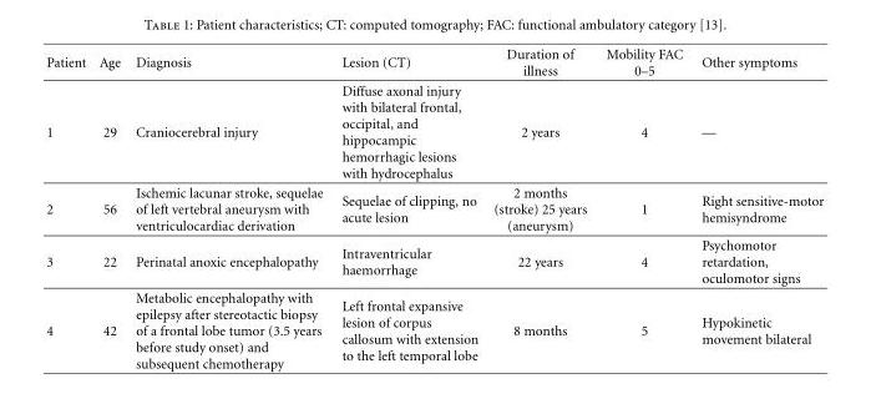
<table><thead><tr><td>Patient</td><td>Age</td><td>Diagnosis</td><td>Lesion (CT)</td><td>Duration of illness</td><td>Mobility FAC 0–5</td><td>Other symptoms</td></tr></thead><tbody><tr><td>1</td><td>29</td><td>Craniocerebral injury</td><td>Diffuse axonal injury with bilateral frontal, occipital, and hippocampic hemorrhagic lesions with hydrocephalus</td><td>2 years</td><td>4</td><td>—</td></tr><tr><td>2</td><td>56</td><td>Ischemic lacunar stroke, sequelae of left vertebral aneurysm with ventriculocardiac derivation</td><td>Sequelae of clipping, no acute lesion</td><td>2 months (stroke) 25 years (aneurysm)</td><td>1</td><td>Right sensitive-motor hemisyndrome</td></tr><tr><td>3</td><td>22</td><td>Perinatal anoxic encephalopathy</td><td>Intraventricular haemorrhage</td><td>22 years</td><td>4</td><td>Psychomotor retardation, oculomotor signs</td></tr><tr><td>4</td><td>42</td><td>Metabolic encephalopathy with epilepsy after stereotactic biopsy of a frontal lobe tumor (3.5 years before study onset) and subsequent chemotherapy</td><td>Left frontal expansive lesion of corpus callosum with extension to the left temporal lobe</td><td>8 months</td><td>5</td><td>Hypokinetic movement bilateral</td></tr></tbody></table>